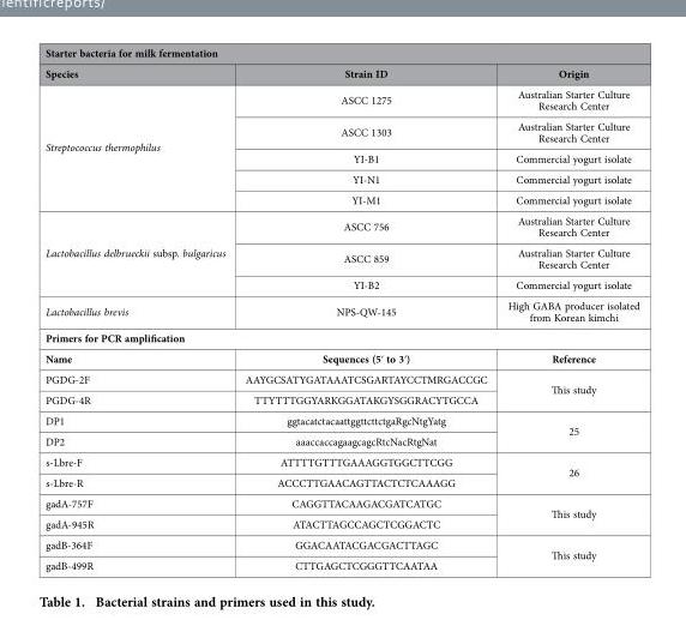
<table><thead><tr><td colspan="3">Starter bacteria for milk fermentation</td></tr><tr><td>Species</td><td>Strain ID</td><td>Origin</td></tr></thead><tbody><tr><td rowspan="5">Streptococcus thermophilus</td><td>ASCC 1275</td><td>Australian Starter Culture Research Center</td></tr><tr><td>ASCC 1303</td><td>Australian Starter Culture Research Center</td></tr><tr><td>YI-B1</td><td>Commercial yogurt isolate</td></tr><tr><td>YI-N1</td><td>Commercial yogurt isolate</td></tr><tr><td>YI-M1</td><td>Commercial yogurt isolate</td></tr><tr><td rowspan="3">Lactobacillus delbrueckii subsp. bulgaricus</td><td>ASCC 756</td><td>Australian Starter Culture Research Center</td></tr><tr><td>ASCC 859</td><td>Australian Starter Culture Research Center</td></tr><tr><td>YI-B2</td><td>Commercial yogurt isolate</td></tr><tr><td>Lactobacillus brevis</td><td>NPS-QW-145</td><td>High GABA producer isolated from Korean kimchi</td></tr><tr><td colspan="3">Primers for PCR amplification</td></tr><tr><td>Name</td><td>Sequences (5ʹ to 3ʹ)</td><td>Reference</td></tr><tr><td>PGDG-2F</td><td>AAYGCSATYGATAAATCSGARTAYCCTMRGACCGC</td><td rowspan="2">This study</td></tr><tr><td>PGDG-4R</td><td>TTYTTTGGYARKGGATAKGYSGGRACYTGCCA</td></tr><tr><td>DP1</td><td>ggtacatctacaattggttcttctgaRgcNtgYatg</td><td rowspan="2">25</td></tr><tr><td>DP2</td><td>aaaccaccagaagcagcRtcNacRtgNat</td></tr><tr><td>s-Lbre-F</td><td>ATTTTGTTTGAAAGGTGGCTTCGG</td><td rowspan="2">26</td></tr><tr><td>s-Lbre-R</td><td>ACCCTTGAACAGTTACTCTCAAAGG</td></tr><tr><td>gadA-757F</td><td>CAGGTTACAAGACGATCATGC</td><td rowspan="2">This study</td></tr><tr><td>gadA-945R</td><td>ATACTTAGCCAGCTCGGACTC</td></tr><tr><td>gadB-364F</td><td>GGACAATACGACGACTTAGC</td><td rowspan="2">This study</td></tr><tr><td>gadB-499R</td><td>CTTGAGCTCGGGTTCAATAA</td></tr></tbody></table>